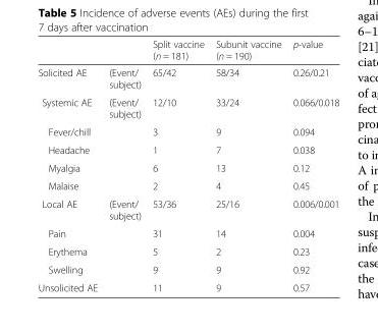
<table><thead><tr><td></td><td></td><td>Split vaccine (n = 181)</td><td>Subunit vaccine (n = 190)</td><td>p-value</td></tr></thead><tbody><tr><td>Solicited AE</td><td>(Event/ subject)</td><td>65/42</td><td>58/34</td><td>0.26/0.21</td></tr><tr><td>Systemic AE</td><td>(Event/ subject)</td><td>12/10</td><td>33/24</td><td>0.066/0.018</td></tr><tr><td>Fever/chill</td><td></td><td>3</td><td>9</td><td>0.094</td></tr><tr><td>Headache</td><td></td><td>1</td><td>7</td><td>0.038</td></tr><tr><td>Myalgia</td><td></td><td>6</td><td>13</td><td>0.12</td></tr><tr><td>Malaise</td><td></td><td>2</td><td>4</td><td>0.45</td></tr><tr><td>Local AE</td><td>(Event/ subject)</td><td>53/36</td><td>25/16</td><td>0.006/0.001</td></tr><tr><td>Pain</td><td></td><td>31</td><td>14</td><td>0.004</td></tr><tr><td>Erythema</td><td></td><td>5</td><td>2</td><td>0.23</td></tr><tr><td>Swelling</td><td></td><td>9</td><td>9</td><td>0.92</td></tr><tr><td>Unsolicited AE</td><td></td><td>11</td><td>9</td><td>0.57</td></tr></tbody></table>